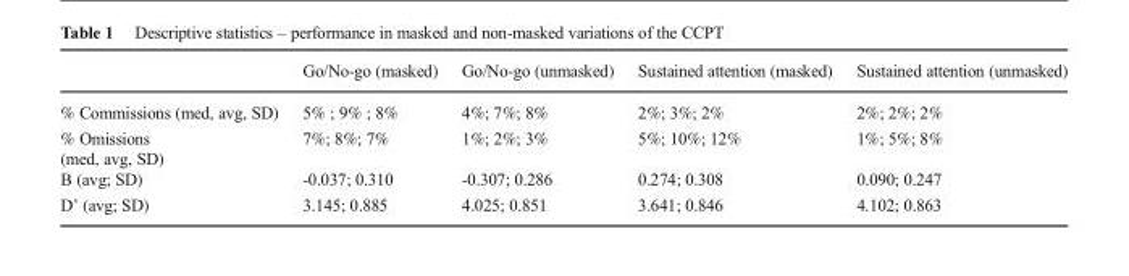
<table><thead><tr><td></td><td>Go/No-go (masked)</td><td>Go/No-go (unmasked)</td><td>Sustained attention (masked)</td><td>Sustained attention (unmasked)</td></tr></thead><tbody><tr><td>% Commissions (med, avg, SD)</td><td>5% ; 9% ; 8%</td><td>4%; 7%; 8%</td><td>2%; 3%; 2%</td><td>2%; 2%; 2%</td></tr><tr><td>% Omissions (med, avg, SD)</td><td>7%; 8%; 7%</td><td>1%; 2%; 3%</td><td>5%; 10%; 12%</td><td>1%; 5%; 8%</td></tr><tr><td>B (avg; SD)</td><td>-0.037; 0.310</td><td>-0.307; 0.286</td><td>0.274; 0.308</td><td>0.090; 0.247</td></tr><tr><td>D’ (avg; SD)</td><td>3.145; 0.885</td><td>4.025; 0.851</td><td>3.641; 0.846</td><td>4.102; 0.863</td></tr></tbody></table>